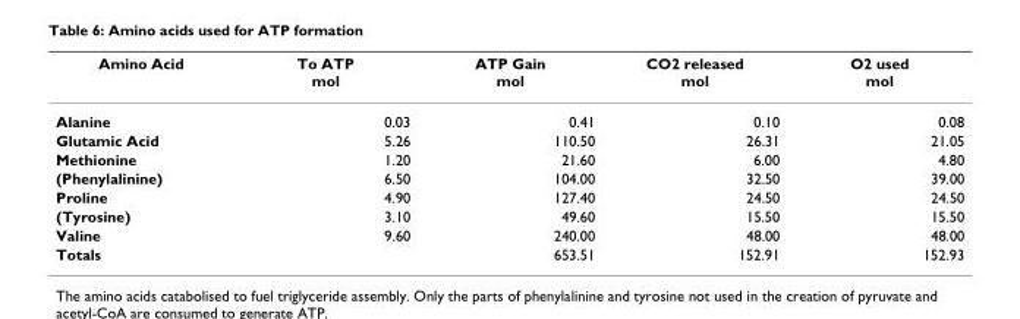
<table><thead><tr><td>Amino Acid</td><td>To ATP mol</td><td>ATP Gain mol</td><td>CO2 released mol</td><td>O2 used mol</td></tr></thead><tbody><tr><td>Alanine</td><td>0.03</td><td>0.41</td><td>0.10</td><td>0.08</td></tr><tr><td>Glutamic Acid</td><td>5.26</td><td>110.50</td><td>26.31</td><td>21.05</td></tr><tr><td>Methionine</td><td>1.20</td><td>21.60</td><td>6.00</td><td>4.80</td></tr><tr><td>(Phenylalinine)</td><td>6.50</td><td>104.00</td><td>32.50</td><td>39.00</td></tr><tr><td>Proline</td><td>4.90</td><td>127.40</td><td>24.50</td><td>24.50</td></tr><tr><td>(Tyrosine)</td><td>3.10</td><td>49.60</td><td>15.50</td><td>15.50</td></tr><tr><td>Valine</td><td>9.60</td><td>240.00</td><td>48.00</td><td>48.00</td></tr><tr><td colspan="2">Totals</td><td>653.51</td><td>152.91</td><td>152.93</td></tr></tbody></table>